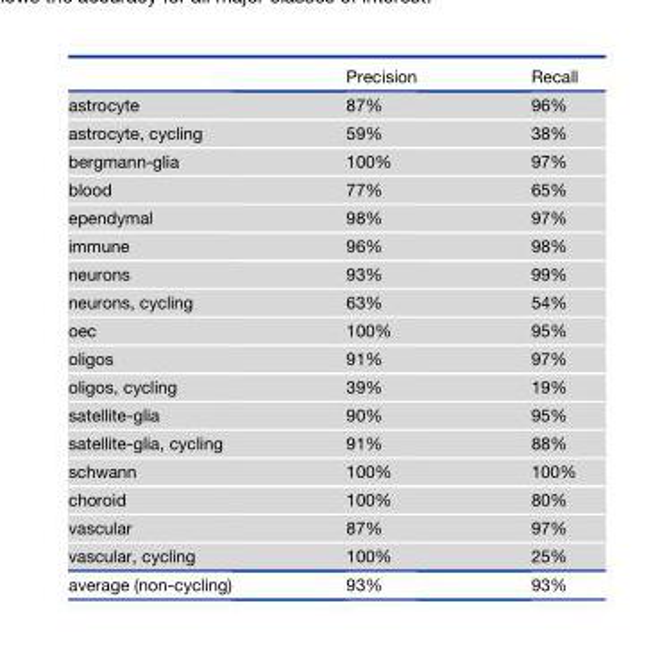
<table><thead><tr><td></td><td>Precision</td><td>Recall</td></tr></thead><tbody><tr><td>astrocyte</td><td>87%</td><td>96%</td></tr><tr><td>astrocyte, cycling</td><td>59%</td><td>38%</td></tr><tr><td>bergmann-glia</td><td>100%</td><td>97%</td></tr><tr><td>blood</td><td>77%</td><td>65%</td></tr><tr><td>ependymal</td><td>98%</td><td>97%</td></tr><tr><td>immune</td><td>96%</td><td>98%</td></tr><tr><td>neurons</td><td>93%</td><td>99%</td></tr><tr><td>neurons, cycling</td><td>63%</td><td>54%</td></tr><tr><td>oec</td><td>100%</td><td>95%</td></tr><tr><td>oligos</td><td>91%</td><td>97%</td></tr><tr><td>oligos, cycling</td><td>39%</td><td>19%</td></tr><tr><td>satellite-glia</td><td>90%</td><td>95%</td></tr><tr><td>satellite-glia, cycling</td><td>91%</td><td>88%</td></tr><tr><td>schwann</td><td>100%</td><td>100%</td></tr><tr><td>choroid</td><td>100%</td><td>80%</td></tr><tr><td>vascular</td><td>87%</td><td>97%</td></tr><tr><td>vascular, cycling</td><td>100%</td><td>25%</td></tr><tr><td>average (non-cycling)</td><td>93%</td><td>93%</td></tr></tbody></table>